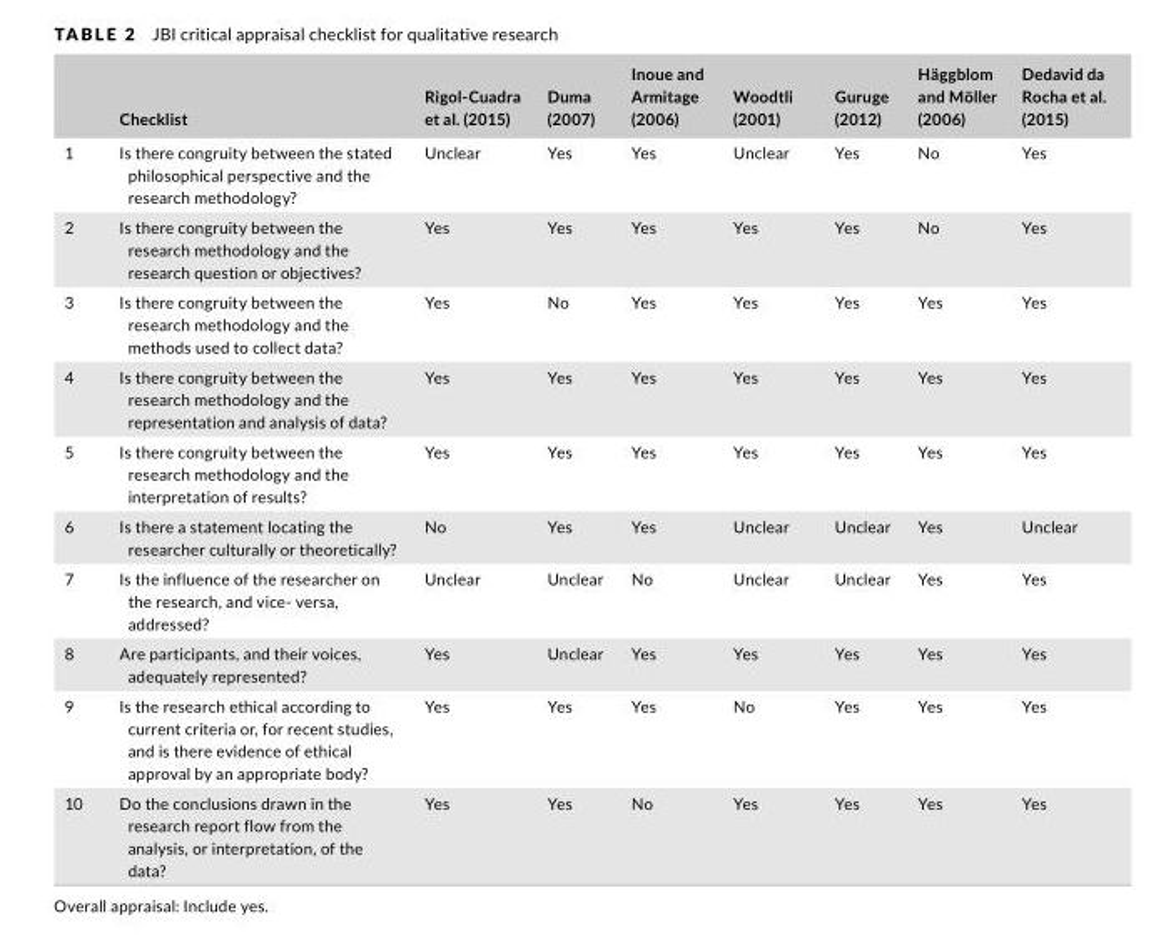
<table><thead><tr><td></td><td>Checklist</td><td>Rigol- Cuadra et al. (2015)</td><td>Duma (2007)</td><td>Inoue and Armitage (2006)</td><td>Woodtli (2001)</td><td>Guruge (2012)</td><td>Häggblom and Möller (2006)</td><td>Dedavid da Rocha et al. (2015)</td></tr></thead><tbody><tr><td>1</td><td>Is there congruity between the stated philosophical perspective and the research methodology?</td><td>Unclear</td><td>Yes</td><td>Yes</td><td>Unclear</td><td>Yes</td><td>No</td><td>Yes</td></tr><tr><td>2</td><td>Is there congruity between the research methodology and the research question or objectives?</td><td>Yes</td><td>Yes</td><td>Yes</td><td>Yes</td><td>Yes</td><td>No</td><td>Yes</td></tr><tr><td>3</td><td>Is there congruity between the research methodology and the methods used to collect data?</td><td>Yes</td><td>No</td><td>Yes</td><td>Yes</td><td>Yes</td><td>Yes</td><td>Yes</td></tr><tr><td>4</td><td>Is there congruity between the research methodology and the representation and analysis of data?</td><td>Yes</td><td>Yes</td><td>Yes</td><td>Yes</td><td>Yes</td><td>Yes</td><td>Yes</td></tr><tr><td>5</td><td>Is there congruity between the research methodology and the interpretation of results?</td><td>Yes</td><td>Yes</td><td>Yes</td><td>Yes</td><td>Yes</td><td>Yes</td><td>Yes</td></tr><tr><td>6</td><td>Is there a statement locating the researcher culturally or theoretically?</td><td>No</td><td>Yes</td><td>Yes</td><td>Unclear</td><td>Unclear</td><td>Yes</td><td>Unclear</td></tr><tr><td>7</td><td>Is the influence of the researcher on the research, and vice- versa, addressed?</td><td>Unclear</td><td>Unclear</td><td>No</td><td>Unclear</td><td>Unclear</td><td>Yes</td><td>Yes</td></tr><tr><td>8</td><td>Are participants, and their voices, adequately represented?</td><td>Yes</td><td>Unclear</td><td>Yes</td><td>Yes</td><td>Yes</td><td>Yes</td><td>Yes</td></tr><tr><td>9</td><td>Is the research ethical according to current criteria or, for recent studies, and is there evidence of ethical approval by an appropriate body?</td><td>Yes</td><td>Yes</td><td>Yes</td><td>No</td><td>Yes</td><td>Yes</td><td>Yes</td></tr><tr><td>10</td><td>Do the conclusions drawn in the research report flow from the analysis, or interpretation, of the data?</td><td>Yes</td><td>Yes</td><td>No</td><td>Yes</td><td>Yes</td><td>Yes</td><td>Yes</td></tr></tbody></table>